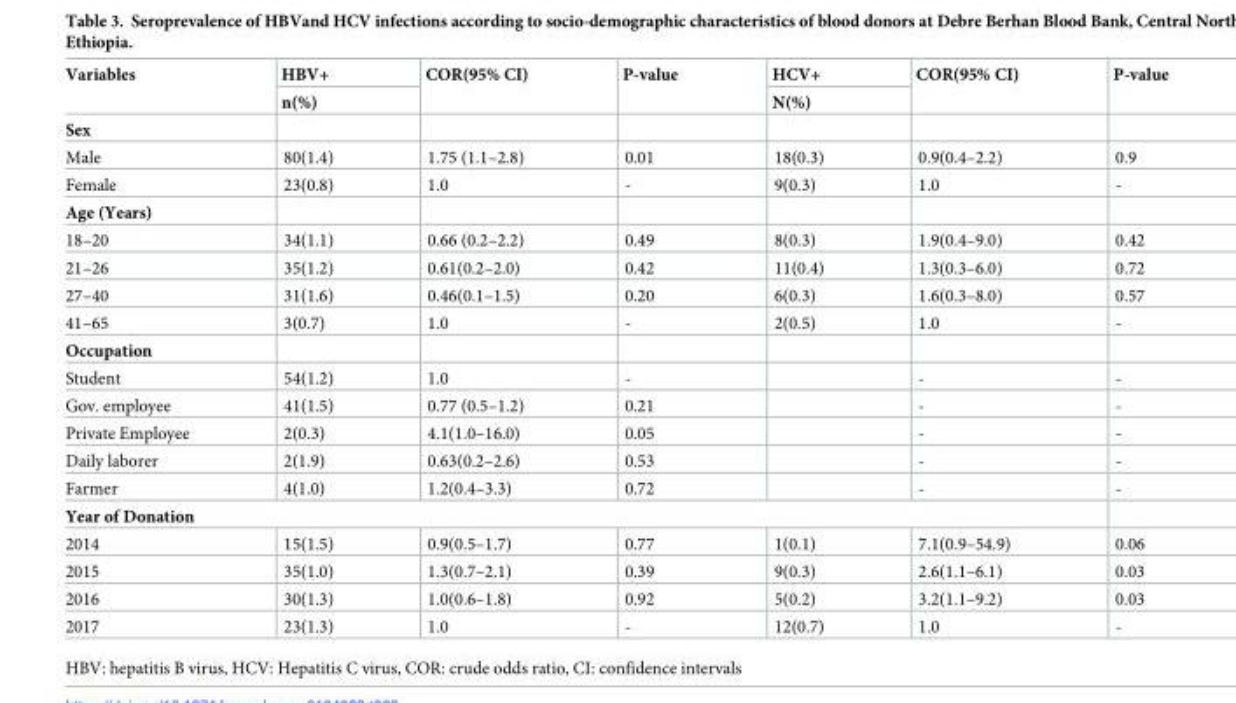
<table><thead><tr><td rowspan="2">Variables</td><td rowspan="2">HBV+ n(%)</td><td rowspan="2">COR(95% CI)</td><td rowspan="2">P-value</td><td rowspan="2">HCV+ N(%)</td><td rowspan="2">COR(95% CI)</td><td rowspan="2">P-value</td></tr><tr></tr></thead><tbody><tr><td colspan="7">Sex</td></tr><tr><td>Male</td><td>80(1.4)</td><td>1.75 (1.1–2.8)</td><td>0.01</td><td>18(0.3)</td><td>0.9(0.4–2.2)</td><td>0.9</td></tr><tr><td>Female</td><td>23(0.8)</td><td>1.0</td><td>-</td><td>9(0.3)</td><td>1.0</td><td>-</td></tr><tr><td colspan="7">Age (Years)</td></tr><tr><td>18–20</td><td>34(1.1)</td><td>0.66 (0.2–2.2)</td><td>0.49</td><td>8(0.3)</td><td>1.9(0.4–9.0)</td><td>0.42</td></tr><tr><td>21–26</td><td>35(1.2)</td><td>0.61(0.2–2.0)</td><td>0.42</td><td>11(0.4)</td><td>1.3(0.3–6.0)</td><td>0.72</td></tr><tr><td>27–40</td><td>31(1.6)</td><td>0.46(0.1–1.5)</td><td>0.20</td><td>6(0.3)</td><td>1.6(0.3–8.0)</td><td>0.57</td></tr><tr><td>41–65</td><td>3(0.7)</td><td>1.0</td><td>-</td><td>2(0.5)</td><td>1.0</td><td>-</td></tr><tr><td colspan="7">Occupation</td></tr><tr><td>Student</td><td>54(1.2)</td><td>1.0</td><td>-</td><td></td><td>-</td><td>-</td></tr><tr><td>Gov. employee</td><td>41(1.5)</td><td>0.77 (0.5–1.2)</td><td>0.21</td><td></td><td>-</td><td>-</td></tr><tr><td>Private Employee</td><td>2(0.3)</td><td>4.1(1.0–16.0)</td><td>0.05</td><td></td><td>-</td><td>-</td></tr><tr><td>Daily laborer</td><td>2(1.9)</td><td>0.63(0.2–2.6)</td><td>0.53</td><td></td><td>-</td><td>-</td></tr><tr><td>Farmer</td><td>4(1.0)</td><td>1.2(0.4–3.3)</td><td>0.72</td><td></td><td>-</td><td>-</td></tr><tr><td colspan="7">Year of Donation</td></tr><tr><td>2014</td><td>15(1.5)</td><td>0.9(0.5–1.7)</td><td>0.77</td><td>1(0.1)</td><td>7.1(0.9–54.9)</td><td>0.06</td></tr><tr><td>2015</td><td>35(1.0)</td><td>1.3(0.7–2.1)</td><td>0.39</td><td>9(0.3)</td><td>2.6(1.1–6.1)</td><td>0.03</td></tr><tr><td>2016</td><td>30(1.3)</td><td>1.0(0.6–1.8)</td><td>0.92</td><td>5(0.2)</td><td>3.2(1.1–9.2)</td><td>0.03</td></tr><tr><td>2017</td><td>23(1.3)</td><td>1.0</td><td>-</td><td>12(0.7)</td><td>1.0</td><td>-</td></tr></tbody></table>